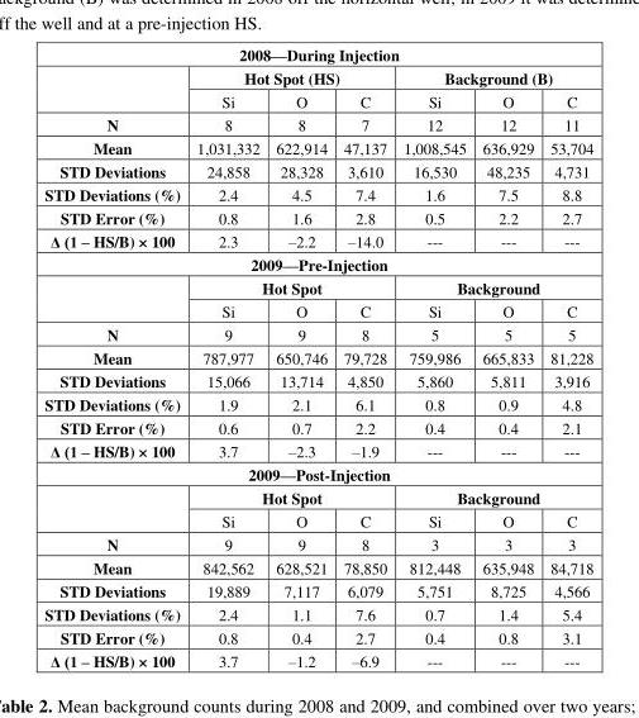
<table><tbody><tr><td colspan="7">2008—During Injection</td></tr><tr><td rowspan="2"></td><td colspan="3">Hot Spot (HS)</td><td colspan="3">Background (B)</td></tr><tr><td>Si</td><td>O</td><td>C</td><td>Si</td><td>O</td><td>C</td></tr><tr><td>N</td><td>8</td><td>8</td><td>7</td><td>12</td><td>12</td><td>11</td></tr><tr><td>Mean</td><td>1,031,332</td><td>622,914</td><td>47,137</td><td>1,008,545</td><td>636,929</td><td>53,704</td></tr><tr><td>STD Deviations</td><td>24,858</td><td>28,328</td><td>3,610</td><td>16,530</td><td>48,235</td><td>4,731</td></tr><tr><td>STD Deviations (%)</td><td>2.4</td><td>4.5</td><td>7.4</td><td>1.6</td><td>7.5</td><td>8.8</td></tr><tr><td>STD Error (%)</td><td>0.8</td><td>1.6</td><td>2.8</td><td>0.5</td><td>2.2</td><td>2.7</td></tr><tr><td>Δ (1 – HS/B) × 100</td><td>2.3</td><td>–2.2</td><td>–14.0</td><td>---</td><td>---</td><td>---</td></tr><tr><td colspan="7">2009—Pre-Injection</td></tr><tr><td rowspan="2"></td><td colspan="3">Hot Spot</td><td colspan="3">Background</td></tr><tr><td>Si</td><td>O</td><td>C</td><td>Si</td><td>O</td><td>C</td></tr><tr><td>N</td><td>9</td><td>9</td><td>8</td><td>5</td><td>5</td><td>5</td></tr><tr><td>Mean</td><td>787,977</td><td>650,746</td><td>79,728</td><td>759,986</td><td>665,833</td><td>81,228</td></tr><tr><td>STD Deviations</td><td>15,066</td><td>13,714</td><td>4,850</td><td>5,860</td><td>5,811</td><td>3,916</td></tr><tr><td>STD Deviations (%)</td><td>1.9</td><td>2.1</td><td>6.1</td><td>0.8</td><td>0.9</td><td>4.8</td></tr><tr><td>STD Error (%)</td><td>0.6</td><td>0.7</td><td>2.2</td><td>0.4</td><td>0.4</td><td>2.1</td></tr><tr><td>Δ (1 – HS/B) × 100</td><td>3.7</td><td>–2.3</td><td>–1.9</td><td>---</td><td>---</td><td>---</td></tr><tr><td colspan="7">2009—Post-Injection</td></tr><tr><td rowspan="2"></td><td colspan="3">Hot Spot</td><td colspan="3">Background</td></tr><tr><td>Si</td><td>O</td><td>C</td><td>Si</td><td>O</td><td>C</td></tr><tr><td>N</td><td>9</td><td>9</td><td>8</td><td>3</td><td>3</td><td>3</td></tr><tr><td>Mean</td><td>842,562</td><td>628,521</td><td>78,850</td><td>812,448</td><td>635,948</td><td>84,718</td></tr><tr><td>STD Deviations</td><td>19,889</td><td>7,117</td><td>6,079</td><td>5,751</td><td>8,725</td><td>4,566</td></tr><tr><td>STD Deviations (%)</td><td>2.4</td><td>1.1</td><td>7.6</td><td>0.7</td><td>1.4</td><td>5.4</td></tr><tr><td>STD Error (%)</td><td>0.8</td><td>0.4</td><td>2.7</td><td>0.4</td><td>0.8</td><td>3.1</td></tr><tr><td>Δ (1 – HS/B) × 100</td><td>3.7</td><td>–1.2</td><td>–6.9</td><td>---</td><td>---</td><td>---</td></tr></tbody></table>